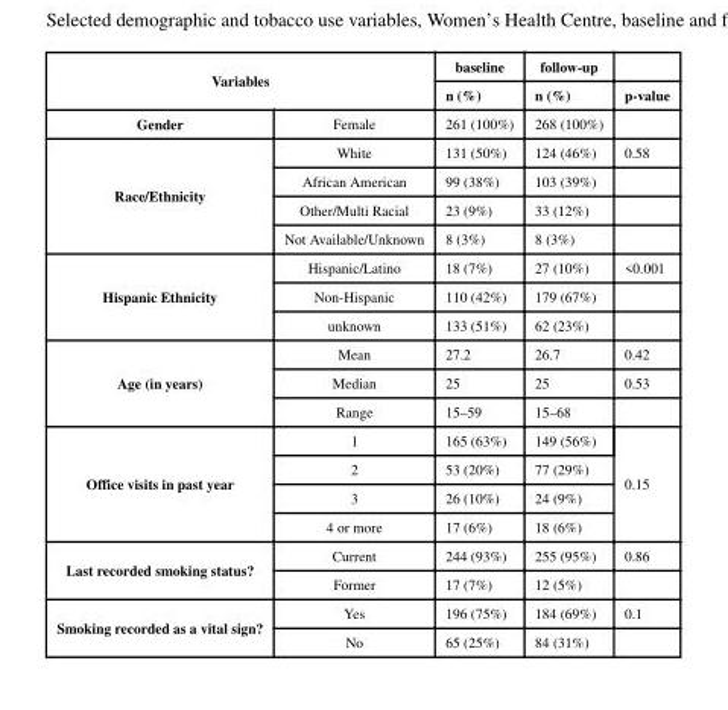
<table><thead><tr><td rowspan="2" colspan="2">Variables</td><td rowspan="3">baseline n (%) 261 (100%)</td><td rowspan="3">follow-up n (%) 268 (100%)</td><td rowspan="3">p-value</td></tr><tr></tr><tr><td>Gender</td><td>Female</td></tr></thead><tbody><tr><td rowspan="4">Race/Ethnicity</td><td>White</td><td>131 (50%)</td><td>124 (46%)</td><td>0.58</td></tr><tr><td>African American</td><td>99 (38%)</td><td>103 (39%)</td><td></td></tr><tr><td>Other/Multi Racial</td><td>23 (9%)</td><td>33 (12%)</td><td></td></tr><tr><td>Not Available/Unknown</td><td>8 (3%)</td><td>8 (3%)</td><td></td></tr><tr><td rowspan="3">Hispanic Ethnicity</td><td>Hispanic/Latino</td><td>18 (7%)</td><td>27 (10%)</td><td>&lt;0.001</td></tr><tr><td>Non-Hispanic</td><td>110 (42%)</td><td>179 (67%)</td><td></td></tr><tr><td>unknown</td><td>133 (51%)</td><td>62 (23%)</td><td></td></tr><tr><td rowspan="3">Age (in years)</td><td>Mean</td><td>27.2</td><td>26.7</td><td>0.42</td></tr><tr><td>Median</td><td>25</td><td>25</td><td>0.53</td></tr><tr><td>Range</td><td>15–59</td><td>15–68</td><td></td></tr><tr><td rowspan="4">Office visits in past year</td><td>1</td><td>165 (63%)</td><td>149 (56%)</td><td rowspan="4">0.15</td></tr><tr><td>2</td><td>53 (20%)</td><td>77 (29%)</td></tr><tr><td>3</td><td>26 (10%)</td><td>24 (9%)</td></tr><tr><td>4 or more</td><td>17 (6%)</td><td>18 (6%)</td></tr><tr><td rowspan="2">Last recorded smoking status?</td><td>Current</td><td>244 (93%)</td><td>255 (95%)</td><td>0.86</td></tr><tr><td>Former</td><td>17 (7%)</td><td>12 (5%)</td><td></td></tr><tr><td rowspan="2">Smoking recorded as a vital sign?</td><td>Yes</td><td>196 (75%)</td><td>184 (69%)</td><td>0.1</td></tr><tr><td>No</td><td>65 (25%)</td><td>84 (31%)</td><td></td></tr></tbody></table>